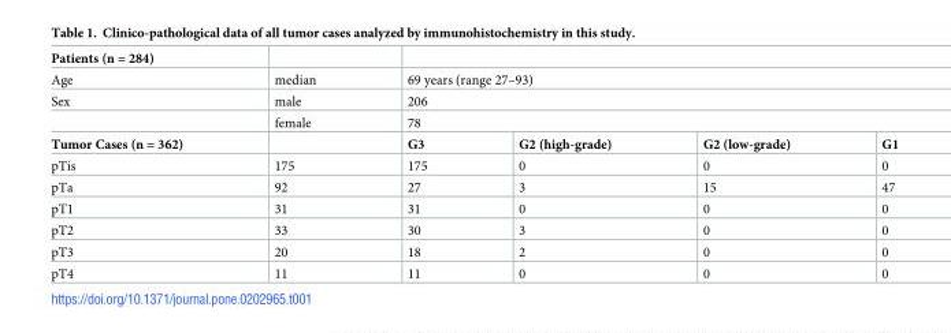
<table><tbody><tr><td colspan="6">Patients (n = 284)</td></tr><tr><td>Age</td><td>median</td><td colspan="4">69 years (range 27–93)</td></tr><tr><td rowspan="2">Sex</td><td>male</td><td colspan="4">206</td></tr><tr><td>female</td><td colspan="4">78</td></tr><tr><td>Tumor Cases (n = 362)</td><td></td><td>G3</td><td>G2 (high-grade)</td><td>G2 (low-grade)</td><td>G1</td></tr><tr><td>pTis</td><td>175</td><td>175</td><td>0</td><td>0</td><td>0</td></tr><tr><td>pTa</td><td>92</td><td>27</td><td>3</td><td>15</td><td>47</td></tr><tr><td>pT1</td><td>31</td><td>31</td><td>0</td><td>0</td><td>0</td></tr><tr><td>pT2</td><td>33</td><td>30</td><td>3</td><td>0</td><td>0</td></tr><tr><td>pT3</td><td>20</td><td>18</td><td>2</td><td>0</td><td>0</td></tr><tr><td>pT4</td><td>11</td><td>11</td><td>0</td><td>0</td><td>0</td></tr></tbody></table>